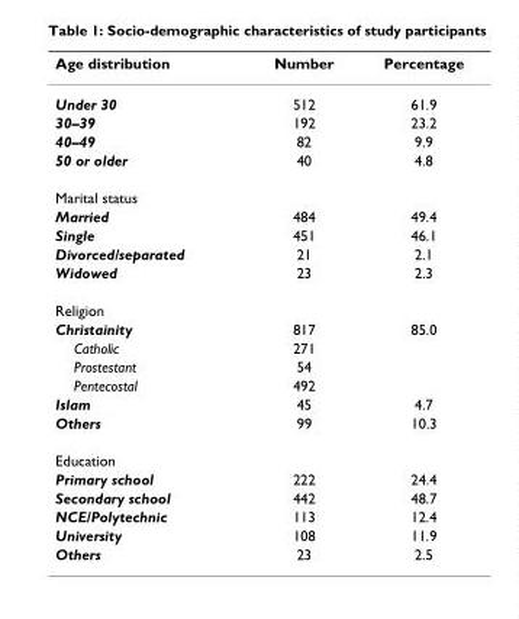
<table><thead><tr><td>Age distribution</td><td>Number</td><td>Percentage</td></tr></thead><tbody><tr><td>Under 30</td><td>512</td><td>61.9</td></tr><tr><td>30–39</td><td>192</td><td>23.2</td></tr><tr><td>40–49</td><td>82</td><td>9.9</td></tr><tr><td>50 or older</td><td>40</td><td>4.8</td></tr><tr><td colspan="3">Marital status</td></tr><tr><td>Married</td><td>484</td><td>49.4</td></tr><tr><td>Single</td><td>451</td><td>46.1</td></tr><tr><td>Divorced/separated</td><td>21</td><td>2.1</td></tr><tr><td>Widowed</td><td>23</td><td>2.3</td></tr><tr><td colspan="3">Religion</td></tr><tr><td>Christainity</td><td>817</td><td>85.0</td></tr><tr><td>Catholic</td><td>271</td><td></td></tr><tr><td>Prostestant</td><td>54</td><td></td></tr><tr><td>Pentecostal</td><td>492</td><td></td></tr><tr><td>Islam</td><td>45</td><td>4.7</td></tr><tr><td>Others</td><td>99</td><td>10.3</td></tr><tr><td colspan="3">Education</td></tr><tr><td>Primary school</td><td>222</td><td>24.4</td></tr><tr><td>Secondary school</td><td>442</td><td>48.7</td></tr><tr><td>NCE/Polytechnic</td><td>113</td><td>12.4</td></tr><tr><td>University</td><td>108</td><td>11.9</td></tr><tr><td>Others</td><td>23</td><td>2.5</td></tr></tbody></table>